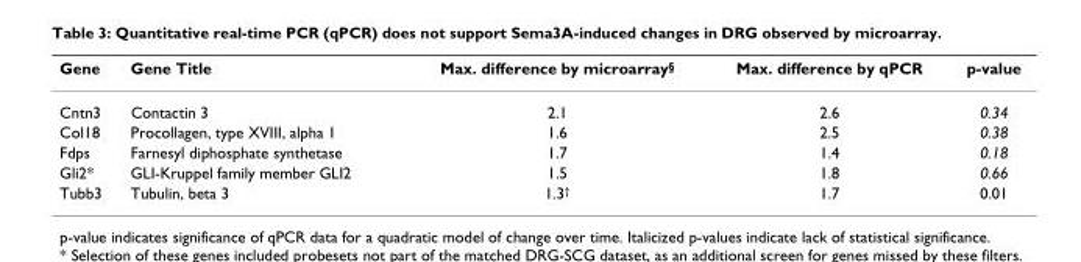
<table><thead><tr><td>Gene</td><td>Gene Title</td><td>Max. difference by microarray<sup>§</sup></td><td>Max. difference by qPCR</td><td>p-value</td></tr></thead><tbody><tr><td>Cntn3</td><td>Contactin 3</td><td>2.1</td><td>2.6</td><td>0.34</td></tr><tr><td>Col18</td><td>Procollagen, type XVIII, alpha 1</td><td>1.6</td><td>2.5</td><td>0.38</td></tr><tr><td>Fdps</td><td>Farnesyl diphosphate synthetase</td><td>1.7</td><td>1.4</td><td>0.18</td></tr><tr><td>Gli2*</td><td>GLI-Kruppel family member GLI2</td><td>1.5</td><td>1.8</td><td>0.66</td></tr><tr><td>Tubb3</td><td>Tubulin, beta 3</td><td>1.3<sup>†</sup></td><td>1.7</td><td>0.01</td></tr></tbody></table>